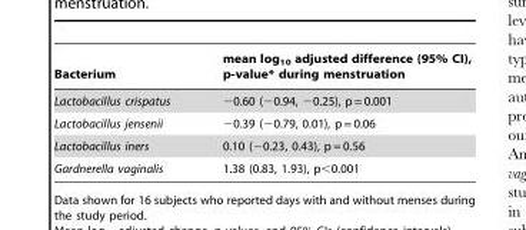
<table><thead><tr><td>Bacterium</td><td>mean log<sub>10</sub> adjusted difference (95% CI), p-value* during menstruation</td></tr></thead><tbody><tr><td>Lactobacillus crispatus</td><td>−0.60 (−0.94, −0.25), p = 0.001</td></tr><tr><td>Lactobacillus jensenii</td><td>−0.39 (−0.79, 0.01), p = 0.06</td></tr><tr><td>Lactobacillus iners</td><td>0.10 (−0.23, 0.43), p = 0.56</td></tr><tr><td>Gardnerella vaginalis</td><td>1.38 (0.83, 1.93), p&lt;0.001</td></tr></tbody></table>